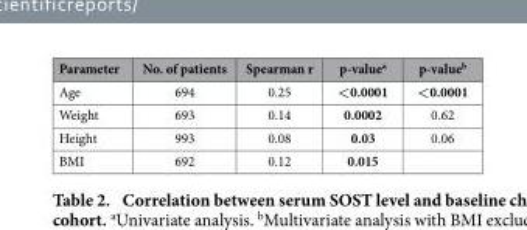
<table><thead><tr><td>Parameter</td><td>No. of patients</td><td>Spearman r</td><td>p-value<sup>a</sup></td><td>p-value<sup>b</sup></td></tr></thead><tbody><tr><td>Age</td><td>694</td><td>0.25</td><td>&lt;0.0001</td><td>&lt;0.0001</td></tr><tr><td>Weight</td><td>693</td><td>0.14</td><td>0.0002</td><td>0.62</td></tr><tr><td>Height</td><td>993</td><td>0.08</td><td>0.03</td><td>0.06</td></tr><tr><td>BMI</td><td>692</td><td>0.12</td><td>0.015</td><td></td></tr></tbody></table>